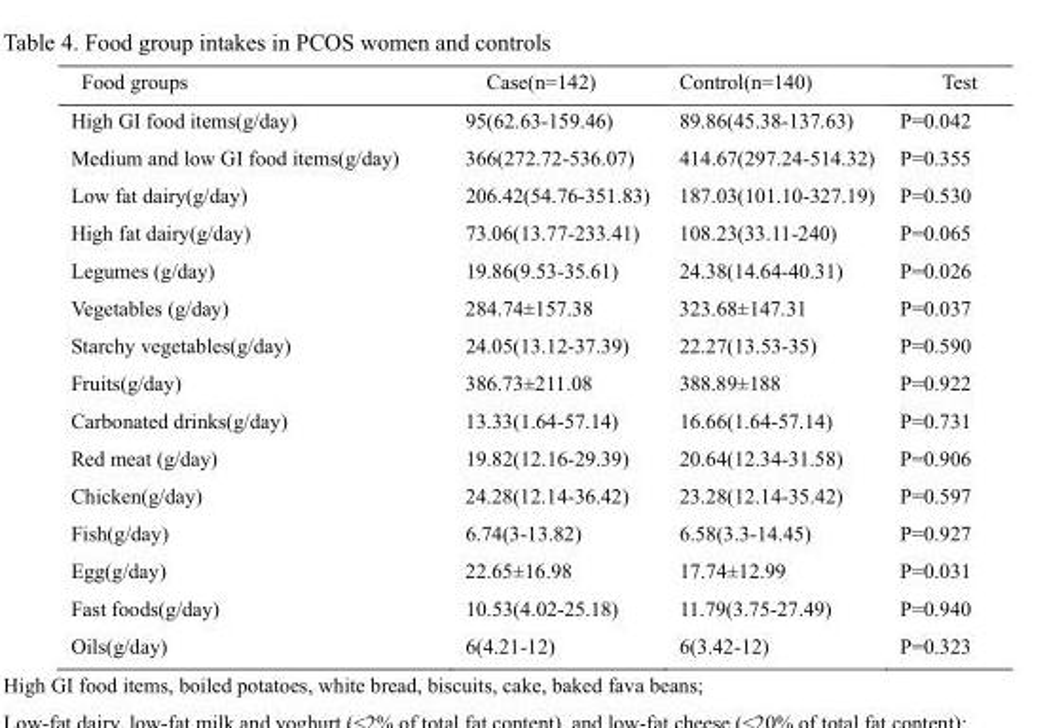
<table><thead><tr><td>Food groups</td><td>Case(n=142)</td><td>Control(n=140)</td><td>Test</td></tr></thead><tbody><tr><td>High GI food items(g/day)</td><td>95(62.63-159.46)</td><td>89.86(45.38-137.63)</td><td>P=0.042</td></tr><tr><td>Medium and low GI food items(g/day)</td><td>366(272.72-536.07)</td><td>414.67(297.24-514.32)</td><td>P=0.355</td></tr><tr><td>Low fat dairy(g/day)</td><td>206.42(54.76-351.83)</td><td>187.03(101.10-327.19)</td><td>P=0.530</td></tr><tr><td>High fat dairy(g/day)</td><td>73.06(13.77-233.41)</td><td>108.23(33.11-240)</td><td>P=0.065</td></tr><tr><td>Legumes (g/day)</td><td>19.86(9.53-35.61)</td><td>24.38(14.64-40.31)</td><td>P=0.026</td></tr><tr><td>Vegetables (g/day)</td><td>284.74±157.38</td><td>323.68±147.31</td><td>P=0.037</td></tr><tr><td>Starchy vegetables(g/day)</td><td>24.05(13.12-37.39)</td><td>22.27(13.53-35)</td><td>P=0.590</td></tr><tr><td>Fruits(g/day)</td><td>386.73±211.08</td><td>388.89±188</td><td>P=0.922</td></tr><tr><td>Carbonated drinks(g/day)</td><td>13.33(1.64-57.14)</td><td>16.66(1.64-57.14)</td><td>P=0.731</td></tr><tr><td>Red meat (g/day)</td><td>19.82(12.16-29.39)</td><td>20.64(12.34-31.58)</td><td>P=0.906</td></tr><tr><td>Chicken(g/day)</td><td>24.28(12.14-36.42)</td><td>23.28(12.14-35.42)</td><td>P=0.597</td></tr><tr><td>Fish(g/day)</td><td>6.74(3-13.82)</td><td>6.58(3.3-14.45)</td><td>P=0.927</td></tr><tr><td>Egg(g/day)</td><td>22.65±16.98</td><td>17.74±12.99</td><td>P=0.031</td></tr><tr><td>Fast foods(g/day)</td><td>10.53(4.02-25.18)</td><td>11.79(3.75-27.49)</td><td>P=0.940</td></tr><tr><td>Oils(g/day)</td><td>6(4.21-12)</td><td>6(3.42-12)</td><td>P=0.323</td></tr></tbody></table>